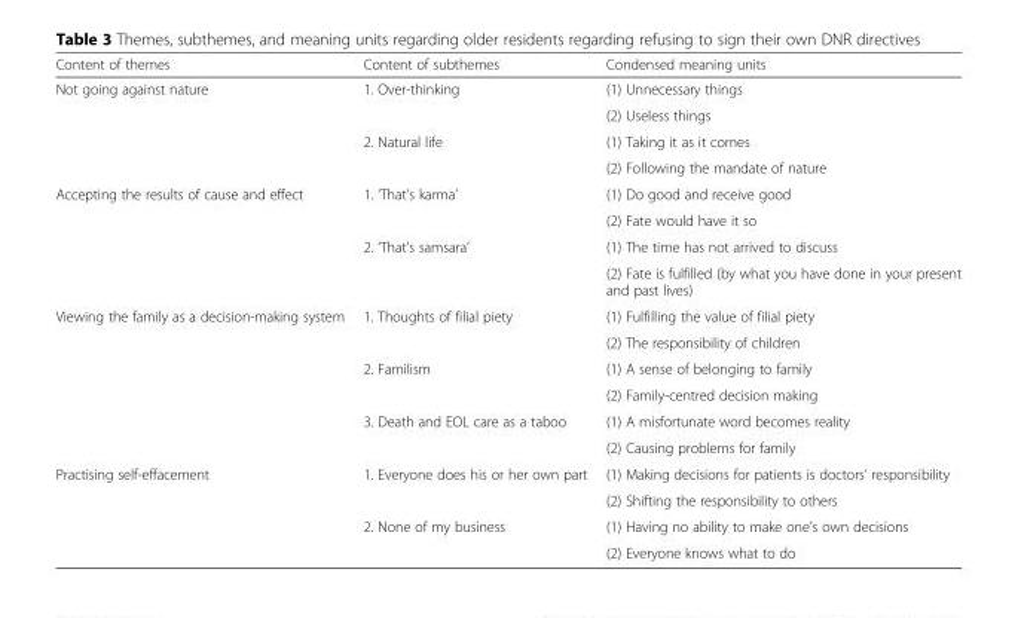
<table><thead><tr><td>Content of themes</td><td>Content of subthemes</td><td>Condensed meaning units</td></tr></thead><tbody><tr><td rowspan="4">Not going against nature</td><td rowspan="2">1. Over-thinking</td><td>(1) Unnecessary things</td></tr><tr><td>(2) Useless things</td></tr><tr><td rowspan="2">2. Natural life</td><td>(1) Taking it as it comes</td></tr><tr><td>(2) Following the mandate of nature</td></tr><tr><td rowspan="4">Accepting the results of cause and effect</td><td rowspan="2">1. ‘That’s karma’</td><td>(1) Do good and receive good</td></tr><tr><td>(2) Fate would have it so</td></tr><tr><td rowspan="2">2. ‘That’s samsara’</td><td>(1) The time has not arrived to discuss</td></tr><tr><td>(2) Fate is fulfilled (by what you have done in your present and past lives)</td></tr><tr><td rowspan="6">Viewing the family as a decision-making system</td><td rowspan="2">1. Thoughts of filial piety</td><td>(1) Fulfilling the value of filial piety</td></tr><tr><td>(2) The responsibility of children</td></tr><tr><td rowspan="2">2. Familism</td><td>(1) A sense of belonging to family</td></tr><tr><td>(2) Family-centred decision making</td></tr><tr><td rowspan="2">3. Death and EOL care as a taboo</td><td>(1) A misfortunate word becomes reality</td></tr><tr><td>(2) Causing problems for family</td></tr><tr><td rowspan="4">Practising self-effacement</td><td rowspan="2">1. Everyone does his or her own part</td><td>(1) Making decisions for patients is doctors’ responsibility</td></tr><tr><td>(2) Shifting the responsibility to others</td></tr><tr><td rowspan="2">2. None of my business</td><td>(1) Having no ability to make one’s own decisions</td></tr><tr><td>(2) Everyone knows what to do</td></tr></tbody></table>